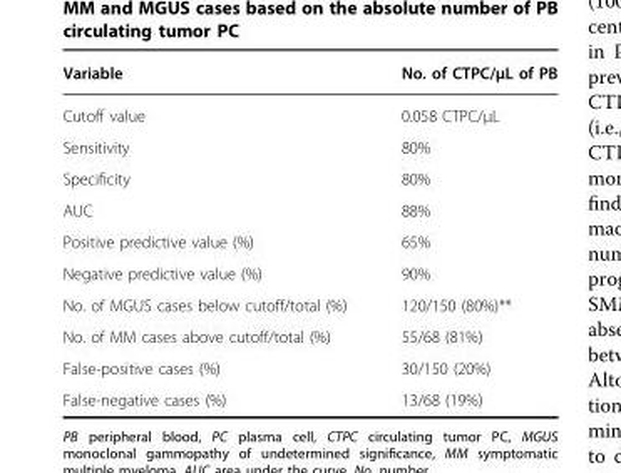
<table><thead><tr><td>Variable</td><td>No. of CTPC/μL of PB</td></tr></thead><tbody><tr><td>Cutoff value</td><td>0.058 CTPC/μL</td></tr><tr><td>Sensitivity</td><td>80%</td></tr><tr><td>Specificity</td><td>80%</td></tr><tr><td>AUC</td><td>88%</td></tr><tr><td>Positive predictive value (%)</td><td>65%</td></tr><tr><td>Negative predictive value (%)</td><td>90%</td></tr><tr><td>No. of MGUS cases below cutoff/total (%)</td><td>120/150 (80%)**</td></tr><tr><td>No. of MM cases above cutoff/total (%)</td><td>55/68 (81%)</td></tr><tr><td>False-positive cases (%)</td><td>30/150 (20%)</td></tr><tr><td>False-negative cases (%)</td><td>13/68 (19%)</td></tr></tbody></table>